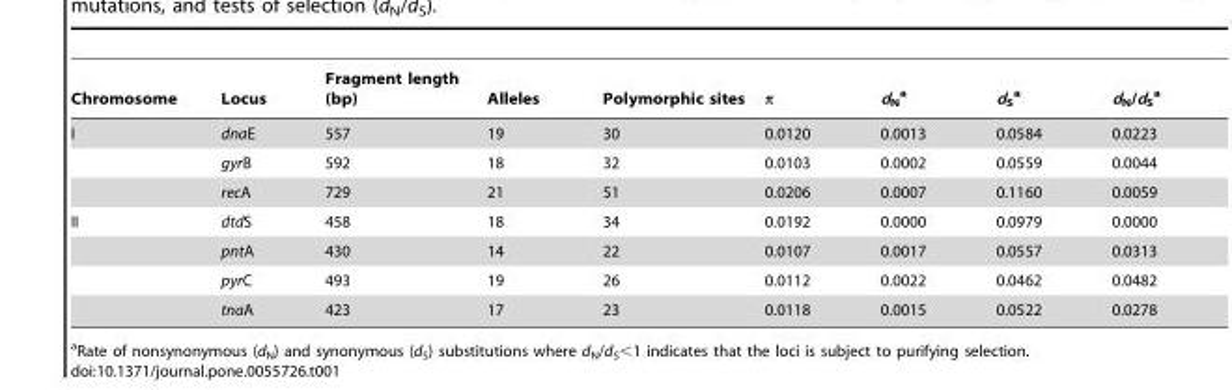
<table><thead><tr><td>Chromosome</td><td>Locus</td><td>Fragment length (bp)</td><td>Alleles</td><td>Polymorphic sites</td><td>π</td><td>d<sub>N</sub> a</td><td>d<sub>S</sub> a</td><td>d<sub>N</sub>/d<sub>S</sub> a</td></tr></thead><tbody><tr><td rowspan="3">I</td><td>dnaE</td><td>557</td><td>19</td><td>30</td><td>0.0120</td><td>0.0013</td><td>0.0584</td><td>0.0223</td></tr><tr><td>gyrB</td><td>592</td><td>18</td><td>32</td><td>0.0103</td><td>0.0002</td><td>0.0559</td><td>0.0044</td></tr><tr><td>recA</td><td>729</td><td>21</td><td>51</td><td>0.0206</td><td>0.0007</td><td>0.1160</td><td>0.0059</td></tr><tr><td rowspan="4">II</td><td>dtdS</td><td>458</td><td>18</td><td>34</td><td>0.0192</td><td>0.0000</td><td>0.0979</td><td>0.0000</td></tr><tr><td>pntA</td><td>430</td><td>14</td><td>22</td><td>0.0107</td><td>0.0017</td><td>0.0557</td><td>0.0313</td></tr><tr><td>pyrC</td><td>493</td><td>19</td><td>26</td><td>0.0112</td><td>0.0022</td><td>0.0462</td><td>0.0482</td></tr><tr><td>tnaA</td><td>423</td><td>17</td><td>23</td><td>0.0118</td><td>0.0015</td><td>0.0522</td><td>0.0278</td></tr></tbody></table>